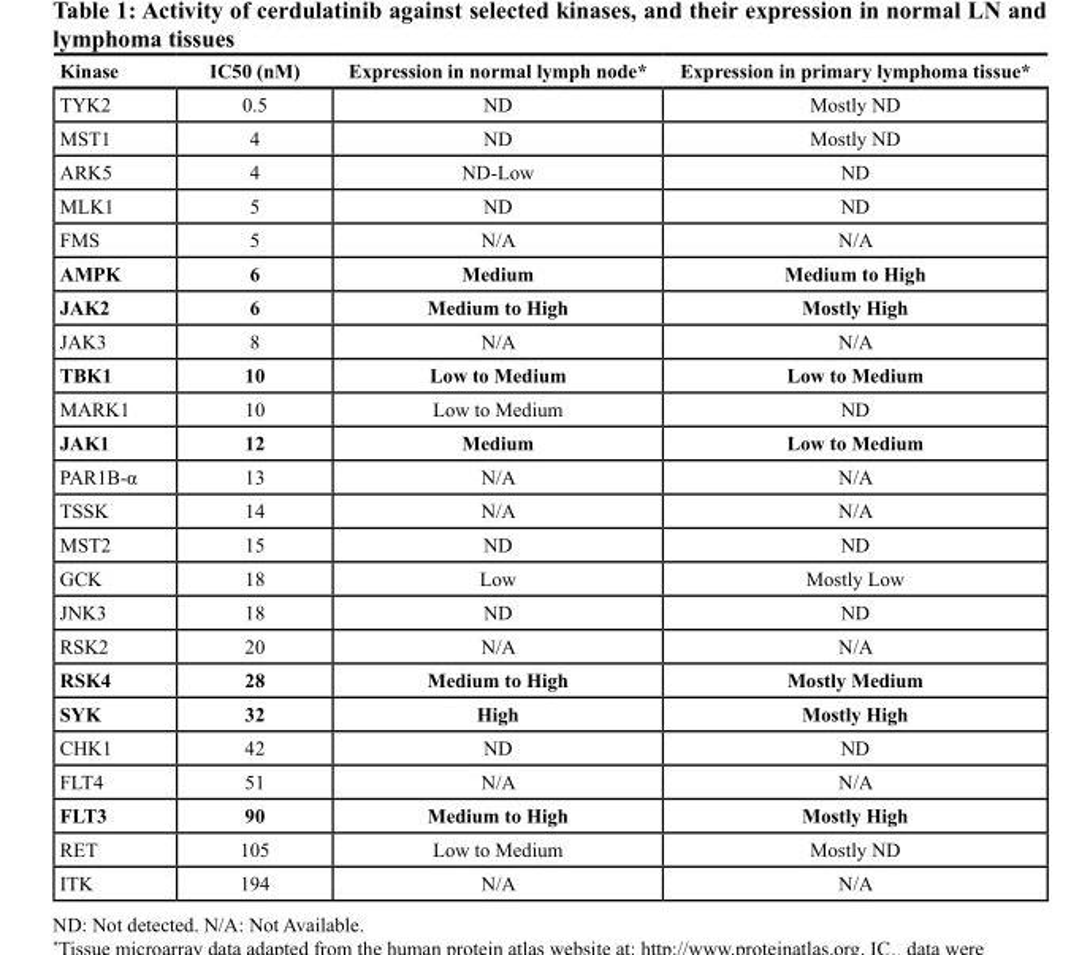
<table><thead><tr><td>Kinase</td><td>IC50 (nM)</td><td>Expression in normal lymph node*</td><td>Expression in primary lymphoma tissue*</td></tr></thead><tbody><tr><td>TYK2</td><td>0.5</td><td>ND</td><td>Mostly ND</td></tr><tr><td>MST1</td><td>4</td><td>ND</td><td>Mostly ND</td></tr><tr><td>ARK5</td><td>4</td><td>ND-Low</td><td>ND</td></tr><tr><td>MLK1</td><td>5</td><td>ND</td><td>ND</td></tr><tr><td>FMS</td><td>5</td><td>N/A</td><td>N/A</td></tr><tr><td>AMPK</td><td>6</td><td>Medium</td><td>Medium to High</td></tr><tr><td>JAK2</td><td>6</td><td>Medium to High</td><td>Mostly High</td></tr><tr><td>JAK3</td><td>8</td><td>N/A</td><td>N/A</td></tr><tr><td>TBK1</td><td>10</td><td>Low to Medium</td><td>Low to Medium</td></tr><tr><td>MARK1</td><td>10</td><td>Low to Medium</td><td>ND</td></tr><tr><td>JAK1</td><td>12</td><td>Medium</td><td>Low to Medium</td></tr><tr><td>PAR1B-α</td><td>13</td><td>N/A</td><td>N/A</td></tr><tr><td>TSSK</td><td>14</td><td>N/A</td><td>N/A</td></tr><tr><td>MST2</td><td>15</td><td>ND</td><td>ND</td></tr><tr><td>GCK</td><td>18</td><td>Low</td><td>Mostly Low</td></tr><tr><td>JNK3</td><td>18</td><td>ND</td><td>ND</td></tr><tr><td>RSK2</td><td>20</td><td>N/A</td><td>N/A</td></tr><tr><td>RSK4</td><td>28</td><td>Medium to High</td><td>Mostly Medium</td></tr><tr><td>SYK</td><td>32</td><td>High</td><td>Mostly High</td></tr><tr><td>CHK1</td><td>42</td><td>ND</td><td>ND</td></tr><tr><td>FLT4</td><td>51</td><td>N/A</td><td>N/A</td></tr><tr><td>FLT3</td><td>90</td><td>Medium to High</td><td>Mostly High</td></tr><tr><td>RET</td><td>105</td><td>Low to Medium</td><td>Mostly ND</td></tr><tr><td>ITK</td><td>194</td><td>N/A</td><td>N/A</td></tr></tbody></table>